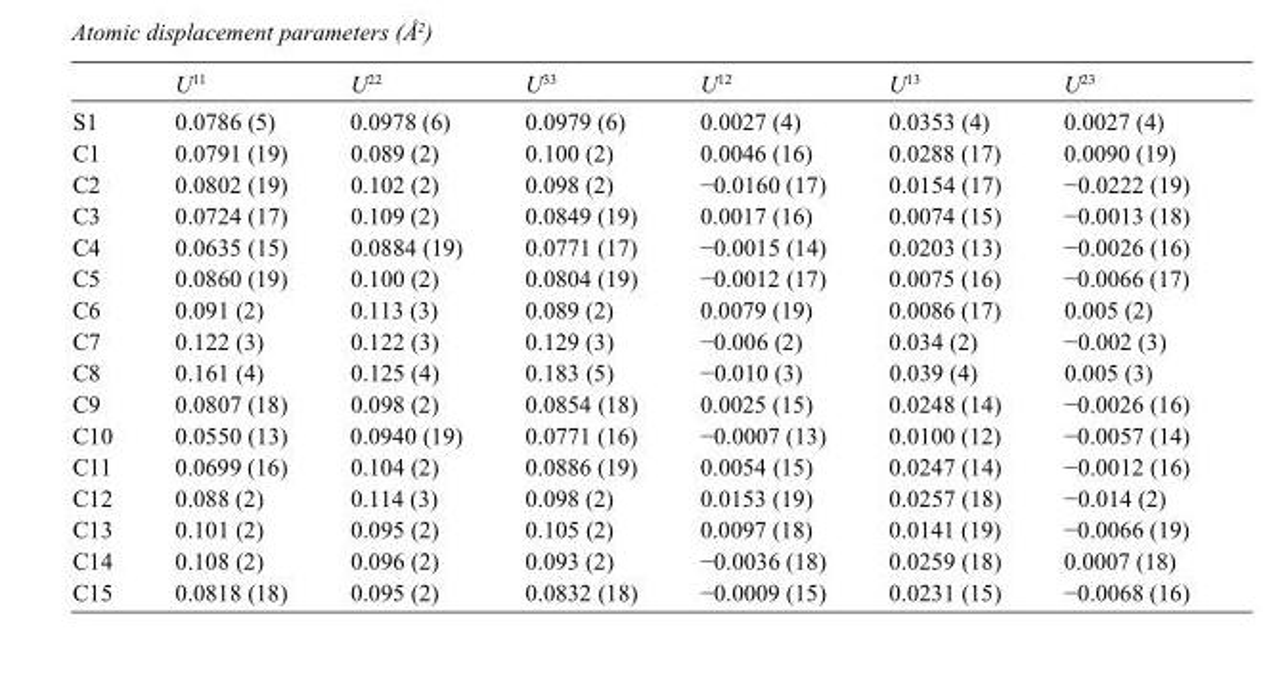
<table><thead><tr><td></td><td>U<sup>11</sup></td><td>U<sup>22</sup></td><td>U<sup>33</sup></td><td>U<sup>12</sup></td><td>U<sup>13</sup></td><td>U<sup>23</sup></td></tr></thead><tbody><tr><td>S1</td><td>0.0786 (5)</td><td>0.0978 (6)</td><td>0.0979 (6)</td><td>0.0027 (4)</td><td>0.0353 (4)</td><td>0.0027 (4)</td></tr><tr><td>C1</td><td>0.0791 (19)</td><td>0.089 (2)</td><td>0.100 (2)</td><td>0.0046 (16)</td><td>0.0288 (17)</td><td>0.0090 (19)</td></tr><tr><td>C2</td><td>0.0802 (19)</td><td>0.102 (2)</td><td>0.098 (2)</td><td>−0.0160 (17)</td><td>0.0154 (17)</td><td>−0.0222 (19)</td></tr><tr><td>C3</td><td>0.0724 (17)</td><td>0.109 (2)</td><td>0.0849 (19)</td><td>0.0017 (16)</td><td>0.0074 (15)</td><td>−0.0013 (18)</td></tr><tr><td>C4</td><td>0.0635 (15)</td><td>0.0884 (19)</td><td>0.0771 (17)</td><td>−0.0015 (14)</td><td>0.0203 (13)</td><td>−0.0026 (16)</td></tr><tr><td>C5</td><td>0.0860 (19)</td><td>0.100 (2)</td><td>0.0804 (19)</td><td>−0.0012 (17)</td><td>0.0075 (16)</td><td>−0.0066 (17)</td></tr><tr><td>C6</td><td>0.091 (2)</td><td>0.113 (3)</td><td>0.089 (2)</td><td>0.0079 (19)</td><td>0.0086 (17)</td><td>0.005 (2)</td></tr><tr><td>C7</td><td>0.122 (3)</td><td>0.122 (3)</td><td>0.129 (3)</td><td>−0.006 (2)</td><td>0.034 (2)</td><td>−0.002 (3)</td></tr><tr><td>C8</td><td>0.161 (4)</td><td>0.125 (4)</td><td>0.183 (5)</td><td>−0.010 (3)</td><td>0.039 (4)</td><td>0.005 (3)</td></tr><tr><td>C9</td><td>0.0807 (18)</td><td>0.098 (2)</td><td>0.0854 (18)</td><td>0.0025 (15)</td><td>0.0248 (14)</td><td>−0.0026 (16)</td></tr><tr><td>C10</td><td>0.0550 (13)</td><td>0.0940 (19)</td><td>0.0771 (16)</td><td>−0.0007 (13)</td><td>0.0100 (12)</td><td>−0.0057 (14)</td></tr><tr><td>C11</td><td>0.0699 (16)</td><td>0.104 (2)</td><td>0.0886 (19)</td><td>0.0054 (15)</td><td>0.0247 (14)</td><td>−0.0012 (16)</td></tr><tr><td>C12</td><td>0.088 (2)</td><td>0.114 (3)</td><td>0.098 (2)</td><td>0.0153 (19)</td><td>0.0257 (18)</td><td>−0.014 (2)</td></tr><tr><td>C13</td><td>0.101 (2)</td><td>0.095 (2)</td><td>0.105 (2)</td><td>0.0097 (18)</td><td>0.0141 (19)</td><td>−0.0066 (19)</td></tr><tr><td>C14</td><td>0.108 (2)</td><td>0.096 (2)</td><td>0.093 (2)</td><td>−0.0036 (18)</td><td>0.0259 (18)</td><td>0.0007 (18)</td></tr><tr><td>C15</td><td>0.0818 (18)</td><td>0.095 (2)</td><td>0.0832 (18)</td><td>−0.0009 (15)</td><td>0.0231 (15)</td><td>−0.0068 (16)</td></tr></tbody></table>